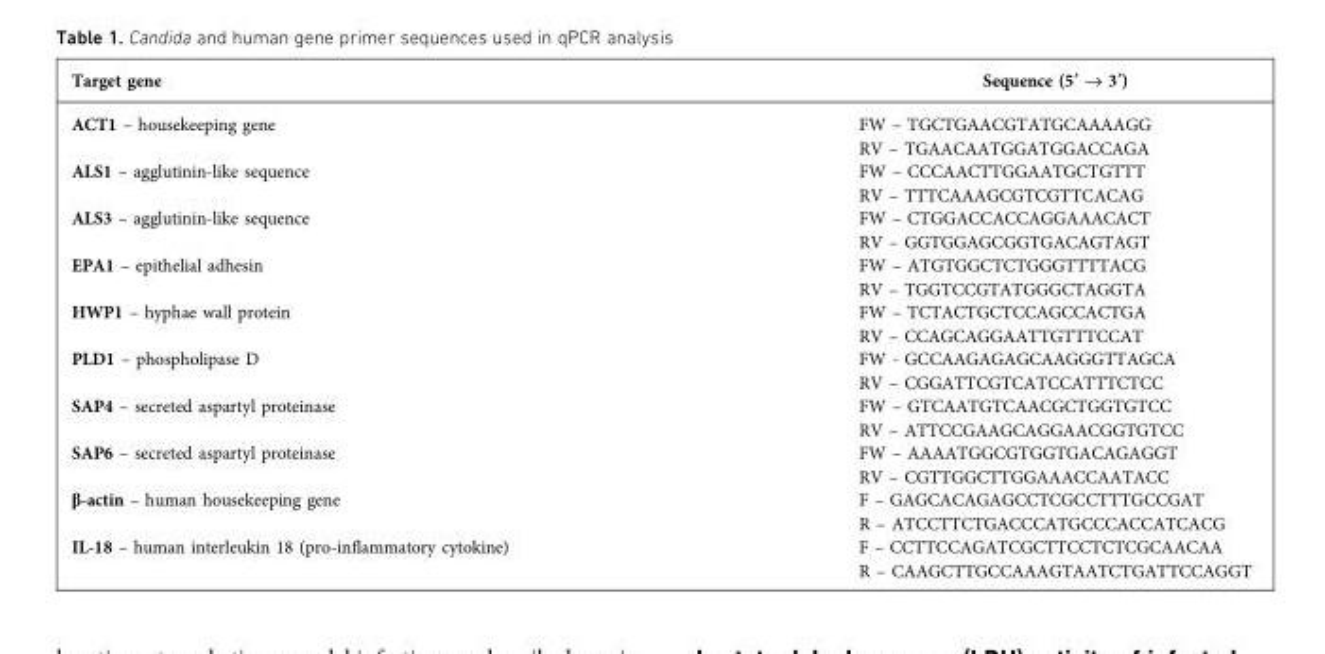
<table><thead><tr><td>Target gene</td><td>Sequence (5¢ fi 3¢)</td></tr></thead><tbody><tr><td>ACT1 – housekeeping gene</td><td>FW – TGCTGAACGTATGCAAAAGG RV – TGAACAATGGATGGACCAGA</td></tr><tr><td>ALS1 – agglutinin-like sequence</td><td>FW – CCCAACTTGGAATGCTGTTT RV – TTTCAAAGCGTCGTTCACAG</td></tr><tr><td>ALS3 – agglutinin-like sequence</td><td>FW – CTGGACCACCAGGAAACACT RV – GGTGGAGCGGTGACAGTAGT</td></tr><tr><td>EPA1 – epithelial adhesin</td><td>FW – ATGTGGCTCTGGGTTTTACG RV – TGGTCCGTATGGGCTAGGTA</td></tr><tr><td>HWP1 – hyphae wall protein</td><td>FW – TCTACTGCTCCAGCCACTGA RV – CCAGCAGGAATTGTTTCCAT</td></tr><tr><td>PLD1 – phospholipase D</td><td>FW - GCCAAGAGAGCAAGGGTTAGCA RV – CGGATTCGTCATCCATTTCTCC</td></tr><tr><td>SAP4 – secreted aspartyl proteinase</td><td>FW – GTCAATGTCAACGCTGGTGTCC RV – ATTCCGAAGCAGGAACGGTGTCC</td></tr><tr><td>SAP6 – secreted aspartyl proteinase</td><td>FW – AAAATGGCGTGGTGACAGAGGT RV – CGTTGGCTTGGAAACCAATACC</td></tr><tr><td>β-actin – human housekeeping gene</td><td>F – GAGCACAGAGCCTCGCCTTTGCCGAT R – ATCCTTCTGACCCATGCCCACCATCACG</td></tr><tr><td>IL-18 – human interleukin 18 (pro-inflammatory cytokine)</td><td>F – CCTTCCAGATCGCTTCCTCTCGCAACAA R – CAAGCTTGCCAAAGTAATCTGATTCCAGGT</td></tr></tbody></table>